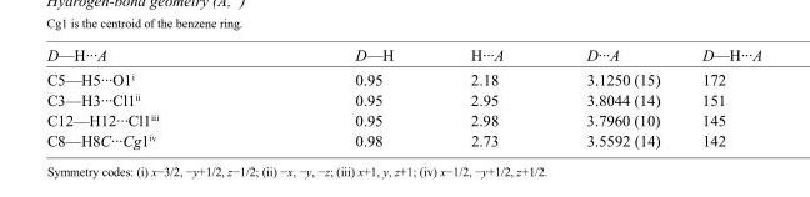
<table><tbody><tr><td>D—H···A</td><td>D—H</td><td>H···A</td><td>D···A</td><td>D—H···A</td></tr><tr><td>C5—H5···O1<sup>i</sup></td><td>0.95</td><td>2.18</td><td>3.1250 (15)</td><td>172</td></tr><tr><td>C3—H3···Cl1<sup>ii</sup></td><td>0.95</td><td>2.95</td><td>3.8044 (14)</td><td>151</td></tr><tr><td>C12—H12···Cl1<sup>iii</sup></td><td>0.95</td><td>2.98</td><td>3.7960 (10)</td><td>145</td></tr><tr><td>C8—H8C···Cg1<sup>iv</sup></td><td>0.98</td><td>2.73</td><td>3.5592 (14)</td><td>142</td></tr></tbody></table>